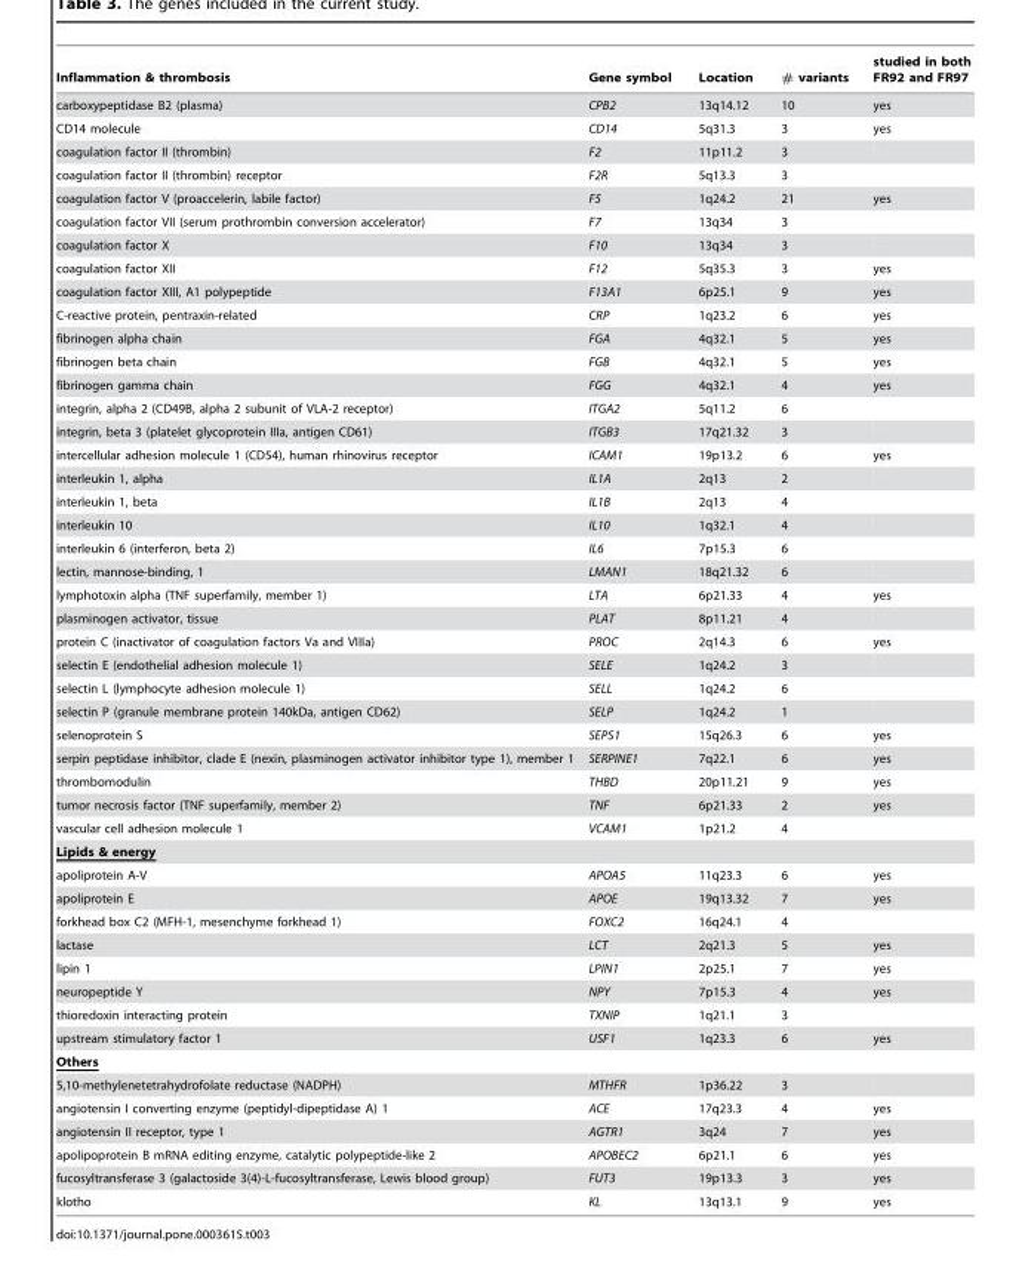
<table><thead><tr><td>Inflammation &amp; thrombosis</td><td>Gene symbol</td><td>Location</td><td># variants</td><td>studied in both FR92 and FR97</td></tr></thead><tbody><tr><td>carboxypeptidase B2 (plasma)</td><td>CPB2</td><td>13q14.12</td><td>10</td><td>yes</td></tr><tr><td>CD14 molecule</td><td>CD14</td><td>5q31.3</td><td>3</td><td>yes</td></tr><tr><td>coagulation factor II (thrombin)</td><td>F2</td><td>11p11.2</td><td>3</td><td></td></tr><tr><td>coagulation factor II (thrombin) receptor</td><td>F2R</td><td>5q13.3</td><td>3</td><td></td></tr><tr><td>coagulation factor V (proaccelerin, labile factor)</td><td>F5</td><td>1q24.2</td><td>21</td><td>yes</td></tr><tr><td>coagulation factor VII (serum prothrombin conversion accelerator)</td><td>F7</td><td>13q34</td><td>3</td><td></td></tr><tr><td>coagulation factor X</td><td>F10</td><td>13q34</td><td>3</td><td></td></tr><tr><td>coagulation factor XII</td><td>F12</td><td>5q35.3</td><td>3</td><td>yes</td></tr><tr><td>coagulation factor XIII, A1 polypeptide</td><td>F13A1</td><td>6p25.1</td><td>9</td><td>yes</td></tr><tr><td>C-reactive protein, pentraxin-related</td><td>CRP</td><td>1q23.2</td><td>6</td><td>yes</td></tr><tr><td>fibrinogen alpha chain</td><td>FGA</td><td>4q32.1</td><td>5</td><td>yes</td></tr><tr><td>fibrinogen beta chain</td><td>FGB</td><td>4q32.1</td><td>5</td><td>yes</td></tr><tr><td>fibrinogen gamma chain</td><td>FGG</td><td>4q32.1</td><td>4</td><td>yes</td></tr><tr><td>integrin, alpha 2 (CD49B, alpha 2 subunit of VLA-2 receptor)</td><td>ITGA2</td><td>5q11.2</td><td>6</td><td></td></tr><tr><td>integrin, beta 3 (platelet glycoprotein IIIa, antigen CD61)</td><td>ITGB3</td><td>17q21.32</td><td>3</td><td></td></tr><tr><td>intercellular adhesion molecule 1 (CD54), human rhinovirus receptor</td><td>ICAM1</td><td>19p13.2</td><td>6</td><td>yes</td></tr><tr><td>interleukin 1, alpha</td><td>IL1A</td><td>2q13</td><td>2</td><td></td></tr><tr><td>interleukin 1, beta</td><td>IL1B</td><td>2q13</td><td>4</td><td></td></tr><tr><td>interleukin 10</td><td>IL10</td><td>1q32.1</td><td>4</td><td></td></tr><tr><td>interleukin 6 (interferon, beta 2)</td><td>IL6</td><td>7p15.3</td><td>6</td><td></td></tr><tr><td>lectin, mannose-binding, 1</td><td>LMAN1</td><td>18q21.32</td><td>6</td><td></td></tr><tr><td>lymphotoxin alpha (TNF superfamily, member 1)</td><td>LTA</td><td>6p21.33</td><td>4</td><td>yes</td></tr><tr><td>plasminogen activator, tissue</td><td>PLAT</td><td>8p11.21</td><td>4</td><td></td></tr><tr><td>protein C (inactivator of coagulation factors Va and VIIIa)</td><td>PROC</td><td>2q14.3</td><td>6</td><td>yes</td></tr><tr><td>selectin E (endothelial adhesion molecule 1)</td><td>SELE</td><td>1q24.2</td><td>3</td><td></td></tr><tr><td>selectin L (lymphocyte adhesion molecule 1)</td><td>SELL</td><td>1q24.2</td><td>6</td><td></td></tr><tr><td>selectin P (granule membrane protein 140kDa, antigen CD62)</td><td>SELP</td><td>1q24.2</td><td>1</td><td></td></tr><tr><td>selenoprotein S</td><td>SEPS1</td><td>15q26.3</td><td>6</td><td>yes</td></tr><tr><td>serpin peptidase inhibitor, clade E (nexin, plasminogen activator inhibitor type 1), member 1</td><td>SERPINE1</td><td>7q22.1</td><td>6</td><td>yes</td></tr><tr><td>thrombomodulin</td><td>THBD</td><td>20p11.21</td><td>9</td><td>yes</td></tr><tr><td>tumor necrosis factor (TNF superfamily, member 2)</td><td>TNF</td><td>6p21.33</td><td>2</td><td>yes</td></tr><tr><td>vascular cell adhesion molecule 1</td><td>VCAM1</td><td>1p21.2</td><td>4</td><td></td></tr><tr><td colspan="5">Lipids &amp; energy</td></tr><tr><td>apoliprotein A-V</td><td>APOA5</td><td>11q23.3</td><td>6</td><td>yes</td></tr><tr><td>apoliprotein E</td><td>APOE</td><td>19q13.32</td><td>7</td><td>yes</td></tr><tr><td>forkhead box C2 (MFH-1, mesenchyme forkhead 1)</td><td>FOXC2</td><td>16q24.1</td><td>4</td><td></td></tr><tr><td>lactase</td><td>LCT</td><td>2q21.3</td><td>5</td><td>yes</td></tr><tr><td>lipin 1</td><td>LPIN1</td><td>2p25.1</td><td>7</td><td>yes</td></tr><tr><td>neuropeptide Y</td><td>NPY</td><td>7p15.3</td><td>4</td><td>yes</td></tr><tr><td>thioredoxin interacting protein</td><td>TXNIP</td><td>1q21.1</td><td>3</td><td></td></tr><tr><td>upstream stimulatory factor 1</td><td>USF1</td><td>1q23.3</td><td>6</td><td>yes</td></tr><tr><td colspan="5">Others</td></tr><tr><td>5,10-methylenetetrahydrofolate reductase (NADPH)</td><td>MTHFR</td><td>1p36.22</td><td>3</td><td></td></tr><tr><td>angiotensin I converting enzyme (peptidyl-dipeptidase A) 1</td><td>ACE</td><td>17q23.3</td><td>4</td><td>yes</td></tr><tr><td>angiotensin II receptor, type 1</td><td>AGTR1</td><td>3q24</td><td>7</td><td>yes</td></tr><tr><td>apolipoprotein B mRNA editing enzyme, catalytic polypeptide-like 2</td><td>APOBEC2</td><td>6p21.1</td><td>6</td><td>yes</td></tr><tr><td>fucosyltransferase 3 (galactoside 3(4)-L-fucosyltransferase, Lewis blood group)</td><td>FUT3</td><td>19p13.3</td><td>3</td><td>yes</td></tr><tr><td>klotho</td><td>KL</td><td>13q13.1</td><td>9</td><td>yes</td></tr></tbody></table>